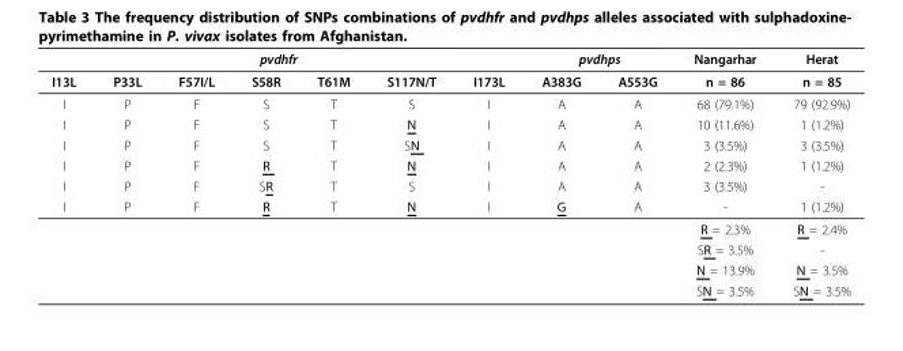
<table><thead><tr><td colspan="7">pvdhfr</td><td colspan="2">pvdhps</td><td rowspan="2">Nangarhar n = 86</td><td rowspan="2">Herat n = 85</td></tr><tr><td>I13L</td><td>P33L</td><td>F57I/L</td><td>S58R</td><td>T61M</td><td>S117N/T</td><td>I173L</td><td>A383G</td><td>A553G</td></tr></thead><tbody><tr><td>I</td><td>P</td><td>F</td><td>S</td><td>T</td><td>S</td><td>I</td><td>A</td><td>A</td><td>68 (79.1%)</td><td>79 (92.9%)</td></tr><tr><td>I</td><td>P</td><td>F</td><td>S</td><td>T</td><td>N</td><td>I</td><td>A</td><td>A</td><td>10 (11.6%)</td><td>1 (1.2%)</td></tr><tr><td>I</td><td>P</td><td>F</td><td>S</td><td>T</td><td>SN</td><td>I</td><td>A</td><td>A</td><td>3 (3.5%)</td><td>3 (3.5%)</td></tr><tr><td>I</td><td>P</td><td>F</td><td>R</td><td>T</td><td>N</td><td>I</td><td>A</td><td>A</td><td>2 (2.3%)</td><td>1 (1.2%)</td></tr><tr><td>I</td><td>P</td><td>F</td><td>SR</td><td>T</td><td>S</td><td>I</td><td>A</td><td>A</td><td>3 (3.5%)</td><td>-</td></tr><tr><td rowspan="5">I</td><td>P</td><td>F</td><td>R</td><td>T</td><td>N</td><td>I</td><td>G</td><td>A</td><td>-</td><td>1 (1.2%)</td></tr><tr><td></td><td></td><td></td><td></td><td></td><td></td><td></td><td></td><td>R = 2.3%</td><td>R = 2.4%</td></tr><tr><td></td><td></td><td></td><td></td><td></td><td></td><td></td><td></td><td>SR = 3.5%</td><td>-</td></tr><tr><td></td><td></td><td></td><td></td><td></td><td></td><td></td><td></td><td>N = 13.9%</td><td>N = 3.5%</td></tr><tr><td></td><td></td><td></td><td></td><td></td><td></td><td></td><td></td><td>SN = 3.5%</td><td>SN = 3.5%</td></tr></tbody></table>